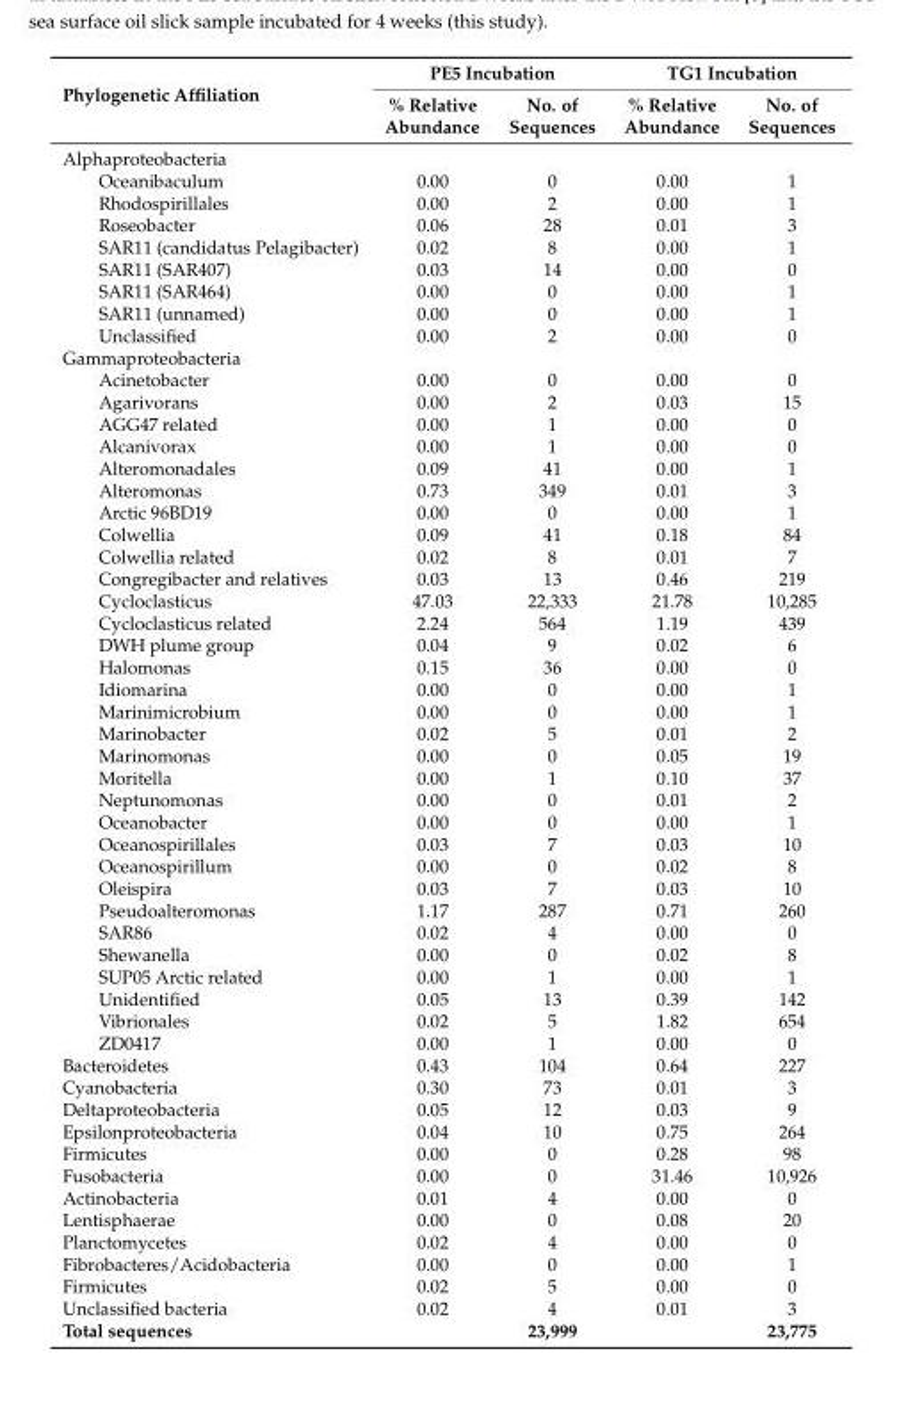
<table><thead><tr><td rowspan="2">Phylogenetic Affiliation</td><td colspan="2">PE5 Incubation</td><td colspan="2">TG1 Incubation</td></tr><tr><td>% Relative Abundance</td><td>No. of Sequences</td><td>% Relative Abundance</td><td>No. of Sequences</td></tr></thead><tbody><tr><td colspan="5">Alphaproteobacteria</td></tr><tr><td>Oceanibaculum</td><td>0.00</td><td>0</td><td>0.00</td><td>1</td></tr><tr><td>Rhodospirillales</td><td>0.00</td><td>2</td><td>0.00</td><td>1</td></tr><tr><td>Roseobacter</td><td>0.06</td><td>28</td><td>0.01</td><td>3</td></tr><tr><td>SAR11 (candidatus Pelagibacter)</td><td>0.02</td><td>8</td><td>0.00</td><td>1</td></tr><tr><td>SAR11 (SAR407)</td><td>0.03</td><td>14</td><td>0.00</td><td>0</td></tr><tr><td>SAR11 (SAR464)</td><td>0.00</td><td>0</td><td>0.00</td><td>1</td></tr><tr><td>SAR11 (unnamed)</td><td>0.00</td><td>0</td><td>0.00</td><td>1</td></tr><tr><td>Unclassified</td><td>0.00</td><td>2</td><td>0.00</td><td>0</td></tr><tr><td colspan="5">Gammaproteobacteria</td></tr><tr><td>Acinetobacter</td><td>0.00</td><td>0</td><td>0.00</td><td>0</td></tr><tr><td>Agarivorans</td><td>0.00</td><td>2</td><td>0.03</td><td>15</td></tr><tr><td>AGG47 related</td><td>0.00</td><td>1</td><td>0.00</td><td>0</td></tr><tr><td>Alcanivorax</td><td>0.00</td><td>1</td><td>0.00</td><td>0</td></tr><tr><td>Alteromonadales</td><td>0.09</td><td>41</td><td>0.00</td><td>1</td></tr><tr><td>Alteromonas</td><td>0.73</td><td>349</td><td>0.01</td><td>3</td></tr><tr><td>Arctic 96BD19</td><td>0.00</td><td>0</td><td>0.00</td><td>1</td></tr><tr><td>Colwellia</td><td>0.09</td><td>41</td><td>0.18</td><td>84</td></tr><tr><td>Colwellia related</td><td>0.02</td><td>8</td><td>0.01</td><td>7</td></tr><tr><td>Congregibacter and relatives</td><td>0.03</td><td>13</td><td>0.46</td><td>219</td></tr><tr><td>Cycloclasticus</td><td>47.03</td><td>22,333</td><td>21.78</td><td>10,285</td></tr><tr><td>Cycloclasticus related</td><td>2.24</td><td>564</td><td>1.19</td><td>439</td></tr><tr><td>DWH plume group</td><td>0.04</td><td>9</td><td>0.02</td><td>6</td></tr><tr><td>Halomonas</td><td>0.15</td><td>36</td><td>0.00</td><td>0</td></tr><tr><td>Idiomarina</td><td>0.00</td><td>0</td><td>0.00</td><td>1</td></tr><tr><td>Marinimicrobium</td><td>0.00</td><td>0</td><td>0.00</td><td>1</td></tr><tr><td>Marinobacter</td><td>0.02</td><td>5</td><td>0.01</td><td>2</td></tr><tr><td>Marinomonas</td><td>0.00</td><td>0</td><td>0.05</td><td>19</td></tr><tr><td>Moritella</td><td>0.00</td><td>1</td><td>0.10</td><td>37</td></tr><tr><td>Neptunomonas</td><td>0.00</td><td>0</td><td>0.01</td><td>2</td></tr><tr><td>Oceanobacter</td><td>0.00</td><td>0</td><td>0.00</td><td>1</td></tr><tr><td>Oceanospirillales</td><td>0.03</td><td>7</td><td>0.03</td><td>10</td></tr><tr><td>Oceanospirillum</td><td>0.00</td><td>0</td><td>0.02</td><td>8</td></tr><tr><td>Oleispira</td><td>0.03</td><td>7</td><td>0.03</td><td>10</td></tr><tr><td>Pseudoalteromonas</td><td>1.17</td><td>287</td><td>0.71</td><td>260</td></tr><tr><td>SAR86</td><td>0.02</td><td>4</td><td>0.00</td><td>0</td></tr><tr><td>Shewanella</td><td>0.00</td><td>0</td><td>0.02</td><td>8</td></tr><tr><td>SUP05 Arctic related</td><td>0.00</td><td>1</td><td>0.00</td><td>1</td></tr><tr><td>Unidentified</td><td>0.05</td><td>13</td><td>0.39</td><td>142</td></tr><tr><td>Vibrionales</td><td>0.02</td><td>5</td><td>1.82</td><td>654</td></tr><tr><td>ZD0417</td><td>0.00</td><td>1</td><td>0.00</td><td>0</td></tr><tr><td>Bacteroidetes</td><td>0.43</td><td>104</td><td>0.64</td><td>227</td></tr><tr><td>Cyanobacteria</td><td>0.30</td><td>73</td><td>0.01</td><td>3</td></tr><tr><td>Deltaproteobacteria</td><td>0.05</td><td>12</td><td>0.03</td><td>9</td></tr><tr><td>Epsilonproteobacteria</td><td>0.04</td><td>10</td><td>0.75</td><td>264</td></tr><tr><td>Firmicutes</td><td>0.00</td><td>0</td><td>0.28</td><td>98</td></tr><tr><td>Fusobacteria</td><td>0.00</td><td>0</td><td>31.46</td><td>10,926</td></tr><tr><td>Actinobacteria</td><td>0.01</td><td>4</td><td>0.00</td><td>0</td></tr><tr><td>Lentisphaerae</td><td>0.00</td><td>0</td><td>0.08</td><td>20</td></tr><tr><td>Planctomycetes</td><td>0.02</td><td>4</td><td>0.00</td><td>0</td></tr><tr><td>Fibrobacteres/Acidobacteria</td><td>0.00</td><td>0</td><td>0.00</td><td>1</td></tr><tr><td>Firmicutes</td><td>0.02</td><td>5</td><td>0.00</td><td>0</td></tr><tr><td>Unclassified bacteria</td><td>0.02</td><td>4</td><td>0.01</td><td>3</td></tr><tr><td>Total sequences</td><td></td><td>23,999</td><td></td><td>23,775</td></tr></tbody></table>